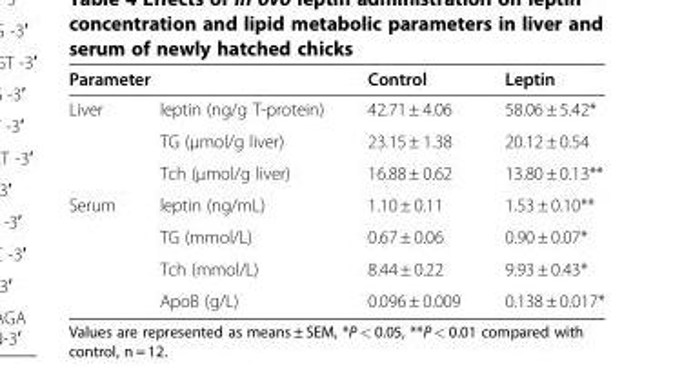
<table><thead><tr><td colspan="2">Parameter</td><td rowspan="2">Control 42.71 ± 4.06</td><td rowspan="2">Leptin 58.06 ± 5.42*</td></tr><tr><td>Liver</td><td>leptin (ng/g T-protein)</td></tr></thead><tbody><tr><td></td><td>TG (μmol/g liver)</td><td>23.15 ± 1.38</td><td>20.12 ± 0.54</td></tr><tr><td></td><td>Tch (μmol/g liver)</td><td>16.88 ± 0.62</td><td>13.80 ± 0.13**</td></tr><tr><td rowspan="4">Serum</td><td>leptin (ng/mL)</td><td>1.10 ± 0.11</td><td>1.53 ± 0.10**</td></tr><tr><td>TG (mmol/L)</td><td>0.67 ± 0.06</td><td>0.90 ± 0.07*</td></tr><tr><td>Tch (mmol/L)</td><td>8.44 ± 0.22</td><td>9.93 ± 0.43*</td></tr><tr><td>ApoB (g/L)</td><td>0.096 ± 0.009</td><td>0.138 ± 0.017*</td></tr></tbody></table>